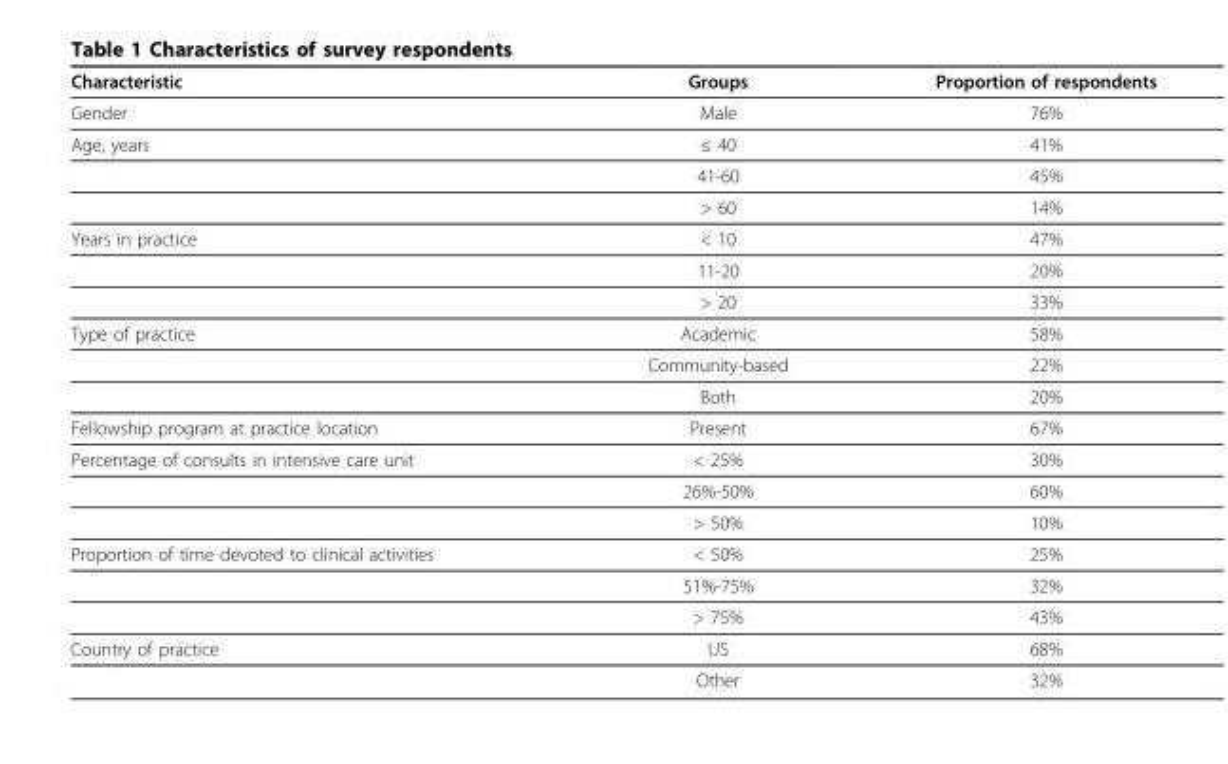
<table><thead><tr><td>Characteristic</td><td>Groups</td><td>Proportion of respondents</td></tr></thead><tbody><tr><td>Gender</td><td>Male</td><td>76%</td></tr><tr><td rowspan="3">Age, years</td><td>≤ 40</td><td>41%</td></tr><tr><td>41-60</td><td>45%</td></tr><tr><td>&gt; 60</td><td>14%</td></tr><tr><td rowspan="3">Years in practice</td><td>&lt; 10</td><td>47%</td></tr><tr><td>11-20</td><td>20%</td></tr><tr><td>&gt; 20</td><td>33%</td></tr><tr><td rowspan="3">Type of practice</td><td>Academic</td><td>58%</td></tr><tr><td>Community-based</td><td>22%</td></tr><tr><td>Both</td><td>20%</td></tr><tr><td>Fellowship program at practice location</td><td>Present</td><td>67%</td></tr><tr><td rowspan="3">Percentage of consults in intensive care unit</td><td>&lt; 25%</td><td>30%</td></tr><tr><td>26%-50%</td><td>60%</td></tr><tr><td>&gt; 50%</td><td>10%</td></tr><tr><td rowspan="3">Proportion of time devoted to clinical activities</td><td>&lt; 50%</td><td>25%</td></tr><tr><td>51%-75%</td><td>32%</td></tr><tr><td>&gt; 75%</td><td>43%</td></tr><tr><td rowspan="2">Country of practice</td><td>US</td><td>68%</td></tr><tr><td>Other</td><td>32%</td></tr></tbody></table>